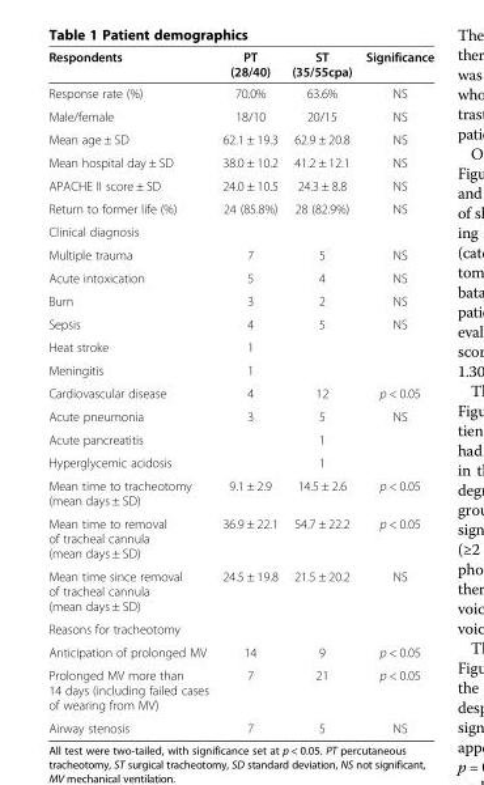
<table><thead><tr><td>Respondents</td><td>PT (28/40)</td><td>ST (35/55cpa)</td><td>Significance</td></tr></thead><tbody><tr><td>Response rate (%)</td><td>70.0%</td><td>63.6%</td><td>NS</td></tr><tr><td>Male/female</td><td>18/10</td><td>20/15</td><td>NS</td></tr><tr><td>Mean age ± SD</td><td>62.1 ± 19.3</td><td>62.9 ± 20.8</td><td>NS</td></tr><tr><td>Mean hospital day ± SD</td><td>38.0 ± 10.2</td><td>41.2 ± 12.1</td><td>NS</td></tr><tr><td>APACHE II score ± SD</td><td>24.0 ± 10.5</td><td>24.3 ± 8.8</td><td>NS</td></tr><tr><td>Return to former life (%)</td><td>24 (85.8%)</td><td>28 (82.9%)</td><td>NS</td></tr><tr><td colspan="4">Clinical diagnosis</td></tr><tr><td>Multiple trauma</td><td>7</td><td>5</td><td>NS</td></tr><tr><td>Acute intoxication</td><td>5</td><td>4</td><td>NS</td></tr><tr><td>Burn</td><td>3</td><td>2</td><td>NS</td></tr><tr><td>Sepsis</td><td>4</td><td>5</td><td>NS</td></tr><tr><td>Heat stroke</td><td>1</td><td></td><td></td></tr><tr><td>Meningitis</td><td>1</td><td></td><td></td></tr><tr><td>Cardiovascular disease</td><td>4</td><td>12</td><td>p &lt; 0.05</td></tr><tr><td>Acute pneumonia</td><td>3</td><td>5</td><td>NS</td></tr><tr><td>Acute pancreatitis</td><td></td><td>1</td><td></td></tr><tr><td>Hyperglycemic acidosis</td><td></td><td>1</td><td></td></tr><tr><td>Mean time to tracheotomy (mean days ± SD)</td><td>9.1 ± 2.9</td><td>14.5 ± 2.6</td><td>p &lt; 0.05</td></tr><tr><td>Mean time to removal of tracheal cannula (mean days ± SD)</td><td>36.9 ± 22.1</td><td>54.7 ± 22.2</td><td>p &lt; 0.05</td></tr><tr><td>Mean time since removal of tracheal cannula (mean days ± SD)</td><td>24.5 ± 19.8</td><td>21.5 ± 20.2</td><td>NS</td></tr><tr><td colspan="4">Reasons for tracheotomy</td></tr><tr><td>Anticipation of prolonged MV</td><td>14</td><td>9</td><td>p &lt; 0.05</td></tr><tr><td>Prolonged MV more than 14 days (including failed cases of wearing from MV)</td><td>7</td><td>21</td><td>p &lt; 0.05</td></tr><tr><td>Airway stenosis</td><td>7</td><td>5</td><td>NS</td></tr></tbody></table>